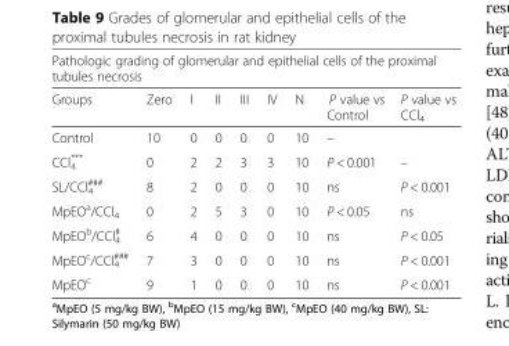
<table><thead><tr><td colspan="9">Pathologic grading of glomerular and epithelial cells of the proximal tubules necrosis</td></tr><tr><td>Groups</td><td>Zero</td><td>I</td><td>II</td><td>III</td><td>IV</td><td>N</td><td>P value vs Control</td><td>P value vs CCl<sub>4</sub></td></tr></thead><tbody><tr><td>Control</td><td>10</td><td>0</td><td>0</td><td>0</td><td>0</td><td>10</td><td>–</td><td></td></tr><tr><td>CCl<sub>4</sub> ***</td><td>0</td><td>2</td><td>2</td><td>3</td><td>3</td><td>10</td><td>P &lt; 0.001</td><td>–</td></tr><tr><td>SL/CCl<sub>4</sub> <sup>###</sup></td><td>8</td><td>2</td><td>0</td><td>0</td><td>0</td><td>10</td><td>ns</td><td>P &lt; 0.001</td></tr><tr><td>MpEO<sup>a</sup>/CCl<sub>4</sub></td><td>0</td><td>2</td><td>5</td><td>3</td><td>0</td><td>10</td><td>P &lt; 0.05</td><td>ns</td></tr><tr><td>MpEO<sup>b</sup>/CCl<sub>4</sub> <sup>#</sup></td><td>6</td><td>4</td><td>0</td><td>0</td><td>0</td><td>10</td><td>ns</td><td>P &lt; 0.05</td></tr><tr><td>MpEO<sup>c</sup>/CCl<sub>4</sub> <sup>###</sup></td><td>7</td><td>3</td><td>0</td><td>0</td><td>0</td><td>10</td><td>ns</td><td>P &lt; 0.001</td></tr><tr><td>MpEO<sup>c</sup></td><td>9</td><td>1</td><td>0</td><td>0</td><td>0</td><td>10</td><td>ns</td><td>P &lt; 0.001</td></tr></tbody></table>